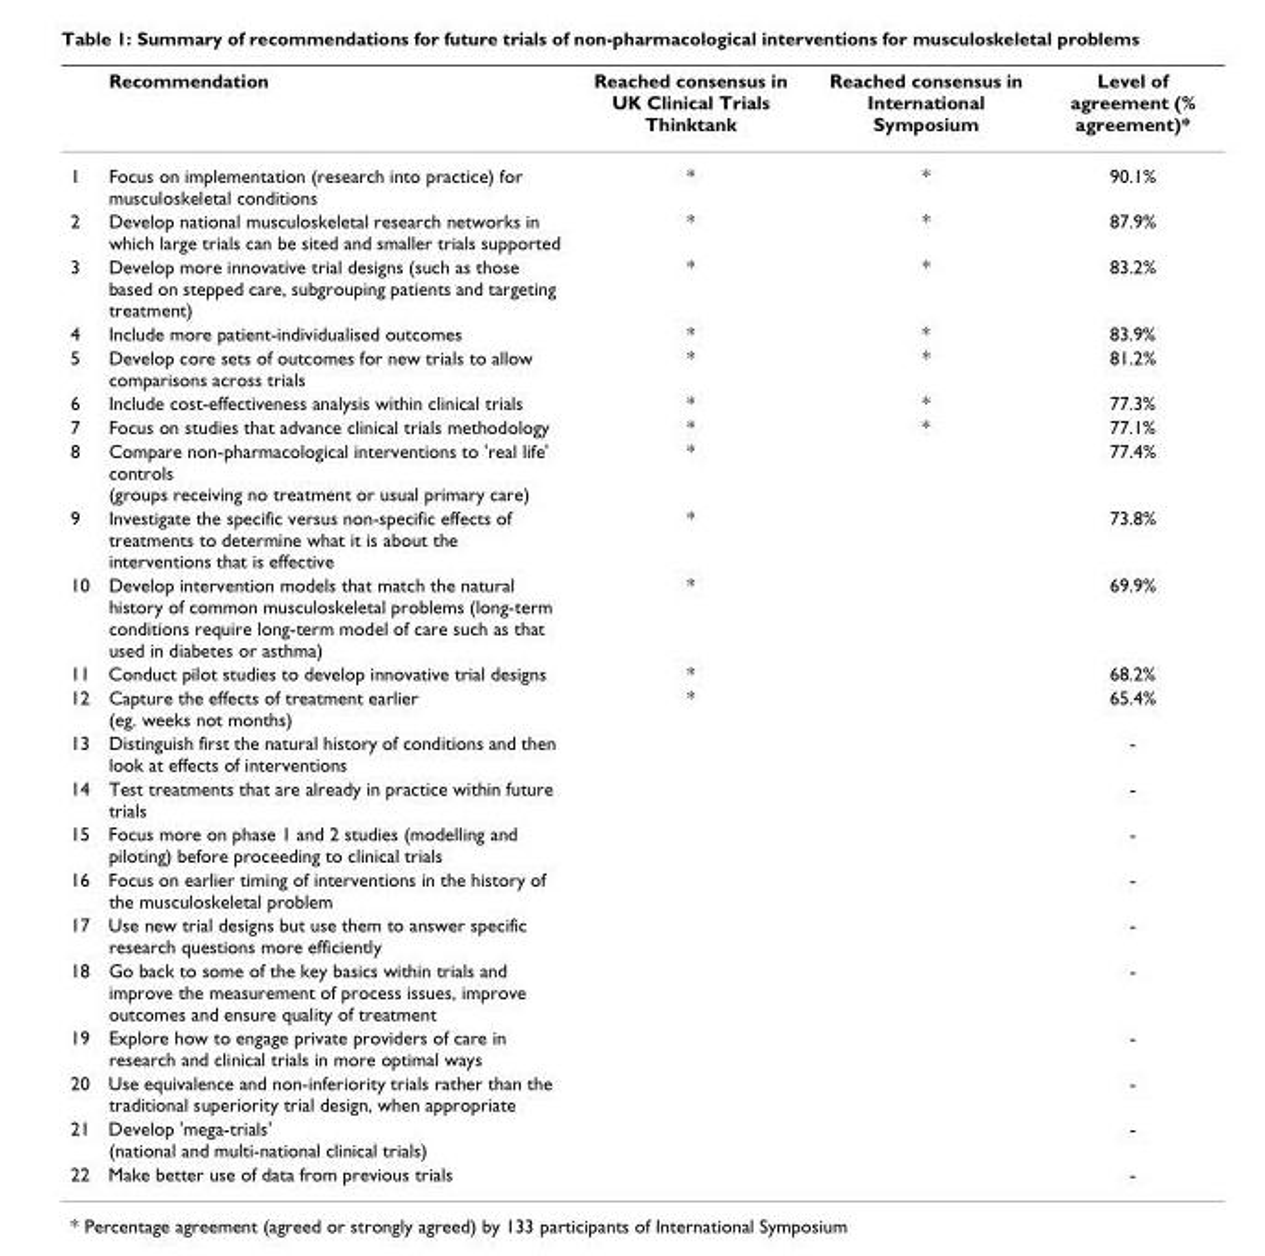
<table><thead><tr><td></td><td>Recommendation</td><td>Reached consensus in UK Clinical Trials Thinktank</td><td>Reached consensus in International Symposium</td><td>Level of agreement (% agreement)*</td></tr></thead><tbody><tr><td>1</td><td>Focus on implementation (research into practice) for musculoskeletal conditions</td><td>*</td><td>*</td><td>90.1%</td></tr><tr><td>2</td><td>Develop national musculoskeletal research networks in which large trials can be sited and smaller trials supported</td><td>*</td><td>*</td><td>87.9%</td></tr><tr><td>3</td><td>Develop more innovative trial designs (such as those based on stepped care, subgrouping patients and targeting treatment)</td><td>*</td><td>*</td><td>83.2%</td></tr><tr><td>4</td><td>Include more patient-individualised outcomes</td><td>*</td><td>*</td><td>83.9%</td></tr><tr><td>5</td><td>Develop core sets of outcomes for new trials to allow comparisons across trials</td><td>*</td><td>*</td><td>81.2%</td></tr><tr><td>6</td><td>Include cost-effectiveness analysis within clinical trials</td><td>*</td><td>*</td><td>77.3%</td></tr><tr><td>7</td><td>Focus on studies that advance clinical trials methodology</td><td>*</td><td>*</td><td>77.1%</td></tr><tr><td>8</td><td>Compare non-pharmacological interventions to &#x27;real life&#x27; controls (groups receiving no treatment or usual primary care)</td><td>*</td><td></td><td>77.4%</td></tr><tr><td>9</td><td>Investigate the specific versus non-specific effects of treatments to determine what it is about the interventions that is effective</td><td>*</td><td></td><td>73.8%</td></tr><tr><td>10</td><td>Develop intervention models that match the natural history of common musculoskeletal problems (long-term conditions require long-term model of care such as that used in diabetes or asthma)</td><td>*</td><td></td><td>69.9%</td></tr><tr><td>11</td><td>Conduct pilot studies to develop innovative trial designs</td><td>*</td><td></td><td>68.2%</td></tr><tr><td>12</td><td>Capture the effects of treatment earlier (eg. weeks not months)</td><td>*</td><td></td><td>65.4%</td></tr><tr><td>13</td><td>Distinguish first the natural history of conditions and then look at effects of interventions</td><td></td><td></td><td>-</td></tr><tr><td>14</td><td>Test treatments that are already in practice within future trials</td><td></td><td></td><td>-</td></tr><tr><td>15</td><td>Focus more on phase 1 and 2 studies (modelling and piloting) before proceeding to clinical trials</td><td></td><td></td><td>-</td></tr><tr><td>16</td><td>Focus on earlier timing of interventions in the history of the musculoskeletal problem</td><td></td><td></td><td>-</td></tr><tr><td>17</td><td>Use new trial designs but use them to answer specific research questions more efficiently</td><td></td><td></td><td>-</td></tr><tr><td>18</td><td>Go back to some of the key basics within trials and improve the measurement of process issues, improve outcomes and ensure quality of treatment</td><td></td><td></td><td>-</td></tr><tr><td>19</td><td>Explore how to engage private providers of care in research and clinical trials in more optimal ways</td><td></td><td></td><td>-</td></tr><tr><td>20</td><td>Use equivalence and non-inferiority trials rather than the traditional superiority trial design, when appropriate</td><td></td><td></td><td>-</td></tr><tr><td>21</td><td>Develop &#x27;mega-trials&#x27; (national and multi-national clinical trials)</td><td></td><td></td><td>-</td></tr><tr><td>22</td><td>Make better use of data from previous trials</td><td></td><td></td><td>-</td></tr></tbody></table>